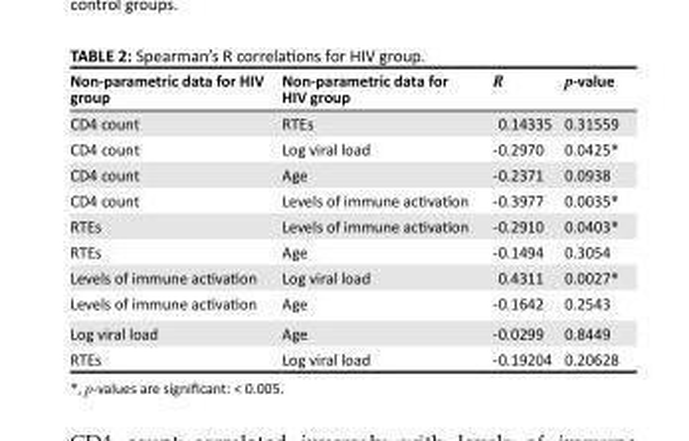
<table><thead><tr><td>Non-parametric data for HIV group</td><td>Non-parametric data for HIV group</td><td>R</td><td>p-value</td></tr></thead><tbody><tr><td>CD4 count</td><td>RTEs</td><td>0.14335</td><td>0.31559</td></tr><tr><td>CD4 count</td><td>Log viral load</td><td>-0.2970</td><td>0.0425*</td></tr><tr><td>CD4 count</td><td>Age</td><td>-0.2371</td><td>0.0938</td></tr><tr><td>CD4 count</td><td>Levels of immune activation</td><td>-0.3977</td><td>0.0035*</td></tr><tr><td>RTEs</td><td>Levels of immune activation</td><td>-0.2910</td><td>0.0403*</td></tr><tr><td>RTEs</td><td>Age</td><td>-0.1494</td><td>0.3054</td></tr><tr><td>Levels of immune activation</td><td>Log viral load</td><td>0.4311</td><td>0.0027*</td></tr><tr><td>Levels of immune activation</td><td>Age</td><td>-0.1642</td><td>0.2543</td></tr><tr><td>Log viral load</td><td>Age</td><td>-0.0299</td><td>0.8449</td></tr><tr><td>RTEs</td><td>Log viral load</td><td>-0.19204</td><td>0.20628</td></tr></tbody></table>